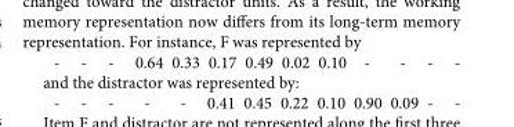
<table><tbody><tr><td>-</td><td>-</td><td>-</td><td>0.64</td><td>0.33</td><td>0.17</td><td>0.49</td><td>0.02</td><td>0.10</td><td>-</td><td>-</td><td>-</td><td>-</td></tr></tbody></table>